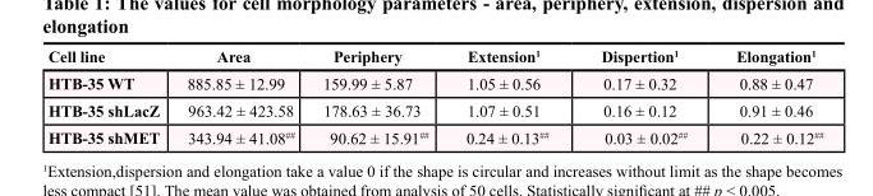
<table><thead><tr><td>Cell line</td><td>Area</td><td>Periphery</td><td>Extension<sup>1</sup></td><td>Dispertion<sup>1</sup></td><td>Elongation<sup>1</sup></td></tr></thead><tbody><tr><td>HTB-35 WT</td><td>885.85 ± 12.99</td><td>159.99 ± 5.87</td><td>1.05 ± 0.56</td><td>0.17 ± 0.32</td><td>0.88 ± 0.47</td></tr><tr><td>HTB-35 shLacZ</td><td>963.42 ± 423.58</td><td>178.63 ± 36.73</td><td>1.07 ± 0.51</td><td>0.16 ± 0.12</td><td>0.91 ± 0.46</td></tr><tr><td>HTB-35 shMET</td><td>343.94 ± 41.08<sup>##</sup></td><td>90.62 ± 15.91<sup>##</sup></td><td>0.24 ± 0.13<sup>##</sup></td><td>0.03 ± 0.02<sup>##</sup></td><td>0.22 ± 0.12<sup>##</sup></td></tr></tbody></table>